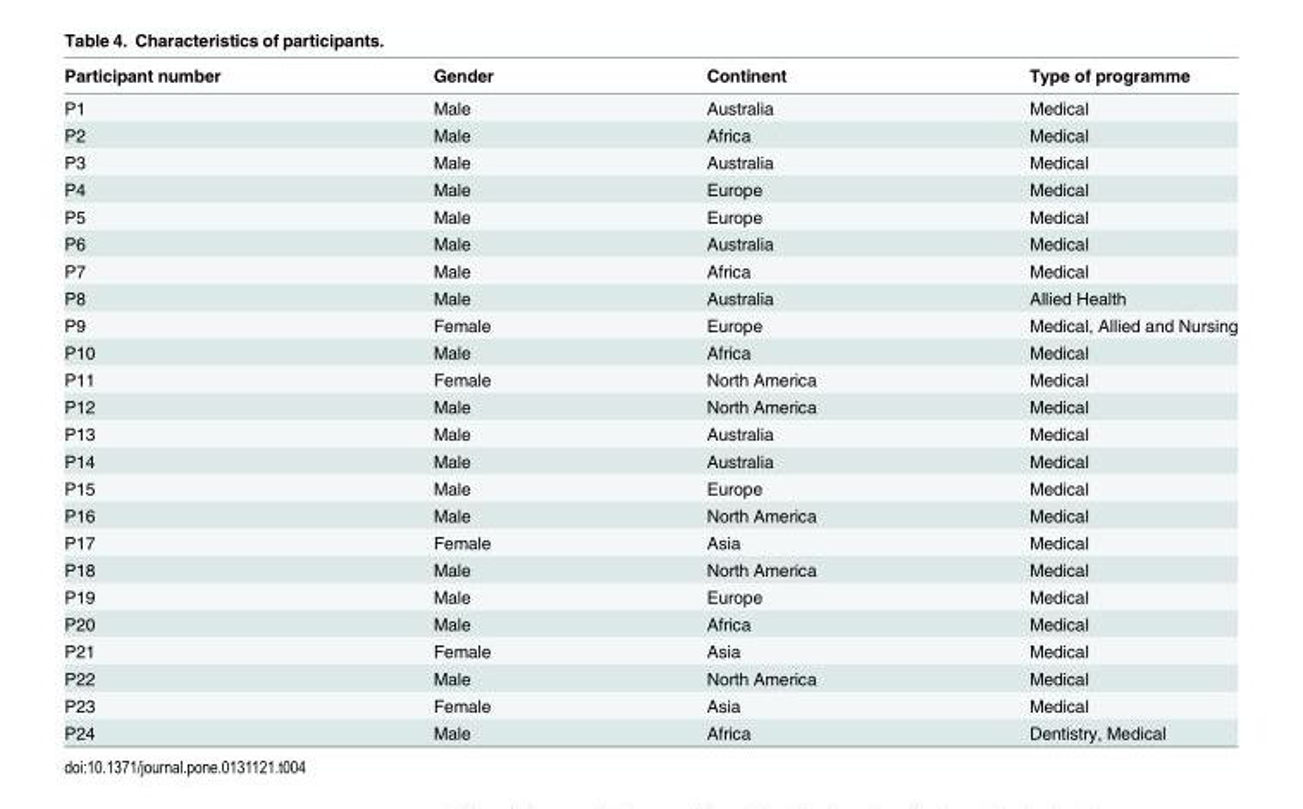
<table><thead><tr><td>Participant number</td><td>Gender</td><td>Continent</td><td>Type of programme</td></tr></thead><tbody><tr><td>P1</td><td>Male</td><td>Australia</td><td>Medical</td></tr><tr><td>P2</td><td>Male</td><td>Africa</td><td>Medical</td></tr><tr><td>P3</td><td>Male</td><td>Australia</td><td>Medical</td></tr><tr><td>P4</td><td>Male</td><td>Europe</td><td>Medical</td></tr><tr><td>P5</td><td>Male</td><td>Europe</td><td>Medical</td></tr><tr><td>P6</td><td>Male</td><td>Australia</td><td>Medical</td></tr><tr><td>P7</td><td>Male</td><td>Africa</td><td>Medical</td></tr><tr><td>P8</td><td>Male</td><td>Australia</td><td>Allied Health</td></tr><tr><td>P9</td><td>Female</td><td>Europe</td><td>Medical, Allied and Nursing</td></tr><tr><td>P10</td><td>Male</td><td>Africa</td><td>Medical</td></tr><tr><td>P11</td><td>Female</td><td>North America</td><td>Medical</td></tr><tr><td>P12</td><td>Male</td><td>North America</td><td>Medical</td></tr><tr><td>P13</td><td>Male</td><td>Australia</td><td>Medical</td></tr><tr><td>P14</td><td>Male</td><td>Australia</td><td>Medical</td></tr><tr><td>P15</td><td>Male</td><td>Europe</td><td>Medical</td></tr><tr><td>P16</td><td>Male</td><td>North America</td><td>Medical</td></tr><tr><td>P17</td><td>Female</td><td>Asia</td><td>Medical</td></tr><tr><td>P18</td><td>Male</td><td>North America</td><td>Medical</td></tr><tr><td>P19</td><td>Male</td><td>Europe</td><td>Medical</td></tr><tr><td>P20</td><td>Male</td><td>Africa</td><td>Medical</td></tr><tr><td>P21</td><td>Female</td><td>Asia</td><td>Medical</td></tr><tr><td>P22</td><td>Male</td><td>North America</td><td>Medical</td></tr><tr><td>P23</td><td>Female</td><td>Asia</td><td>Medical</td></tr><tr><td>P24</td><td>Male</td><td>Africa</td><td>Dentistry, Medical</td></tr></tbody></table>